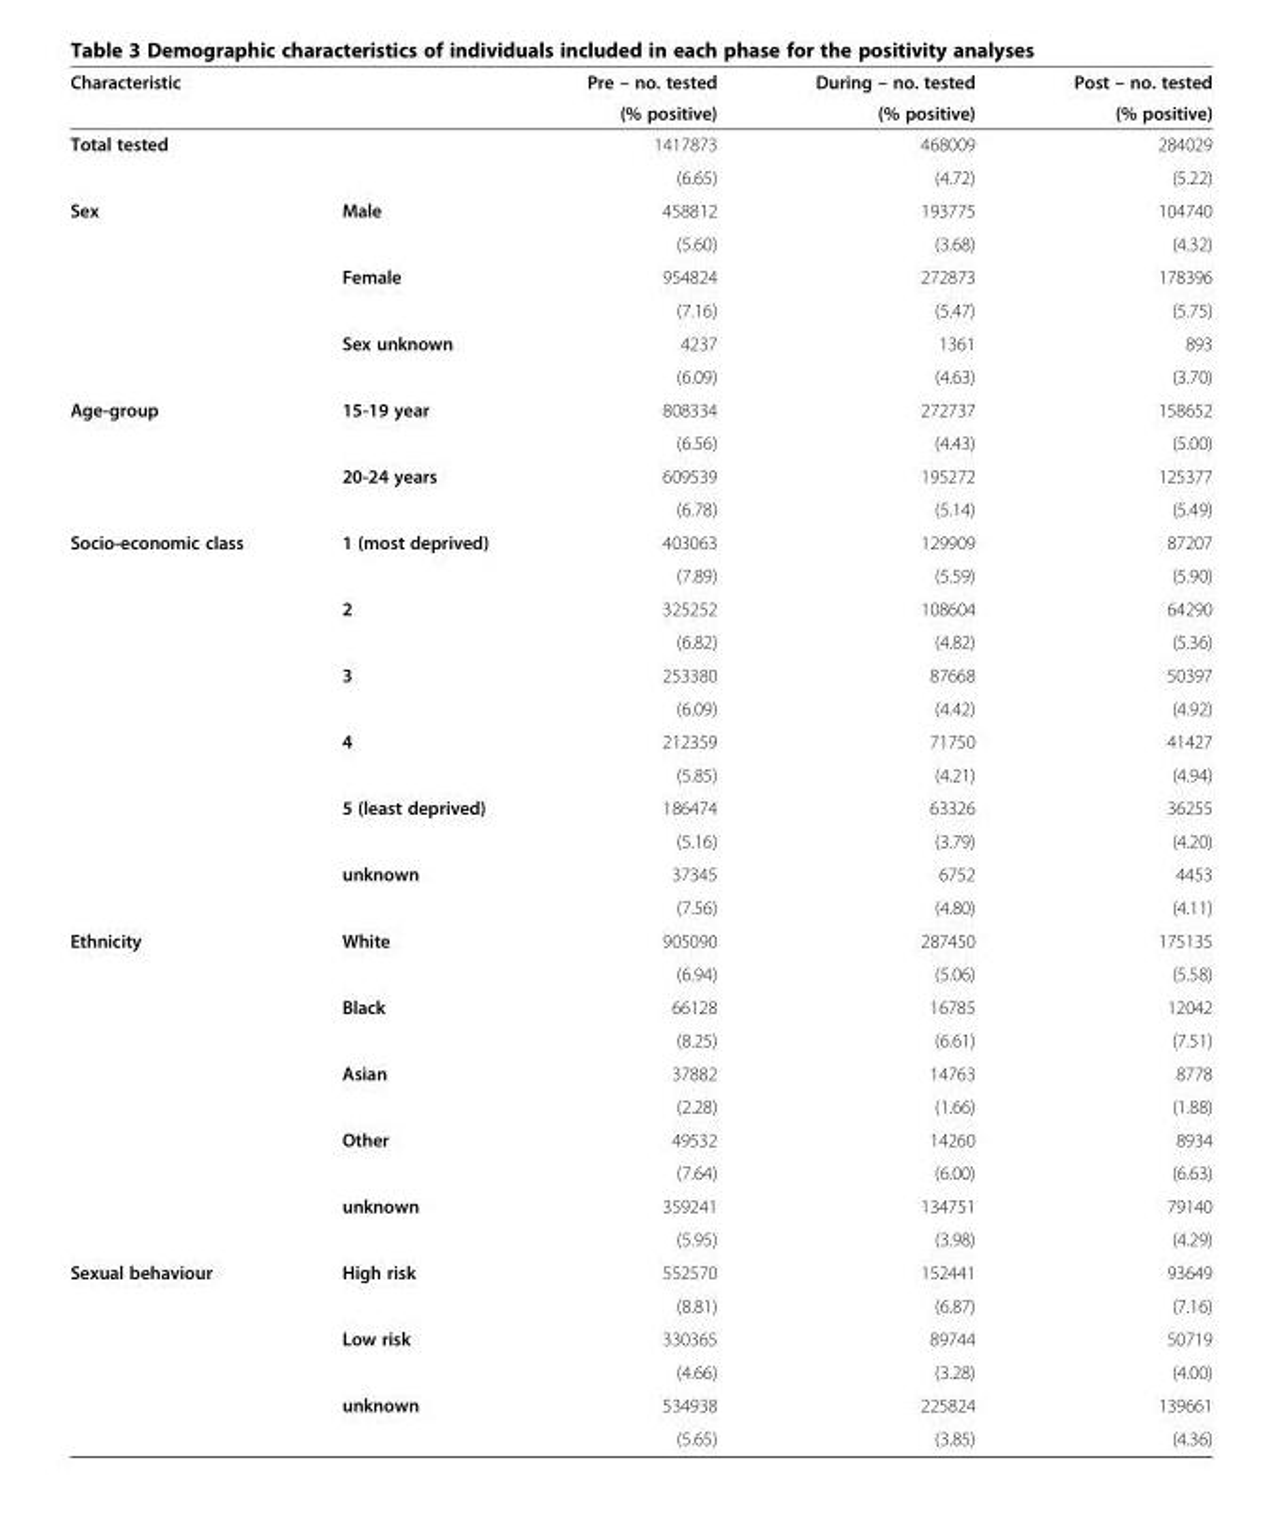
<table><thead><tr><td rowspan="2">Characteristic</td><td rowspan="2"></td><td rowspan="2">Pre – no. tested (% positive)</td><td rowspan="2">During – no. tested (% positive)</td><td rowspan="2">Post – no. tested (% positive)</td></tr><tr></tr></thead><tbody><tr><td rowspan="2" colspan="2">Total tested</td><td>1417873</td><td>468009</td><td>284029</td></tr><tr><td>(6.65)</td><td>(4.72)</td><td>(5.22)</td></tr><tr><td rowspan="6">Sex</td><td rowspan="2">Male</td><td>458812</td><td>193775</td><td>104740</td></tr><tr><td>(5.60)</td><td>(3.68)</td><td>(4.32)</td></tr><tr><td rowspan="2">Female</td><td>954824</td><td>272873</td><td>178396</td></tr><tr><td>(7.16)</td><td>(5.47)</td><td>(5.75)</td></tr><tr><td rowspan="2">Sex unknown</td><td>4237</td><td>1361</td><td>893</td></tr><tr><td>(6.09)</td><td>(4.63)</td><td>(3.70)</td></tr><tr><td rowspan="4">Age-group</td><td rowspan="2">15-19 year</td><td>808334</td><td>272737</td><td>158652</td></tr><tr><td>(6.56)</td><td>(4.43)</td><td>(5.00)</td></tr><tr><td rowspan="2">20-24 years</td><td>609539</td><td>195272</td><td>125377</td></tr><tr><td>(6.78)</td><td>(5.14)</td><td>(5.49)</td></tr><tr><td rowspan="12">Socio-economic class</td><td rowspan="2">1 (most deprived)</td><td>403063</td><td>129909</td><td>87207</td></tr><tr><td>(7.89)</td><td>(5.59)</td><td>(5.90)</td></tr><tr><td rowspan="2">2</td><td>325252</td><td>108604</td><td>64290</td></tr><tr><td>(6.82)</td><td>(4.82)</td><td>(5.36)</td></tr><tr><td rowspan="2">3</td><td>253380</td><td>87668</td><td>50397</td></tr><tr><td>(6.09)</td><td>(4.42)</td><td>(4.92)</td></tr><tr><td rowspan="2">4</td><td>212359</td><td>71750</td><td>41427</td></tr><tr><td>(5.85)</td><td>(4.21)</td><td>(4.94)</td></tr><tr><td rowspan="2">5 (least deprived)</td><td>186474</td><td>63326</td><td>36255</td></tr><tr><td>(5.16)</td><td>(3.79)</td><td>(4.20)</td></tr><tr><td rowspan="2">unknown</td><td>37345</td><td>6752</td><td>4453</td></tr><tr><td>(7.56)</td><td>(4.80)</td><td>(4.11)</td></tr><tr><td rowspan="10">Ethnicity</td><td rowspan="2">White</td><td>905090</td><td>287450</td><td>175135</td></tr><tr><td>(6.94)</td><td>(5.06)</td><td>(5.58)</td></tr><tr><td rowspan="2">Black</td><td>66128</td><td>16785</td><td>12042</td></tr><tr><td>(8.25)</td><td>(6.61)</td><td>(7.51)</td></tr><tr><td rowspan="2">Asian</td><td>37882</td><td>14763</td><td>8778</td></tr><tr><td>(2.28)</td><td>(1.66)</td><td>(1.88)</td></tr><tr><td rowspan="2">Other</td><td>49532</td><td>14260</td><td>8934</td></tr><tr><td>(7.64)</td><td>(6.00)</td><td>(6.63)</td></tr><tr><td rowspan="2">unknown</td><td>359241</td><td>134751</td><td>79140</td></tr><tr><td>(5.95)</td><td>(3.98)</td><td>(4.29)</td></tr><tr><td rowspan="6">Sexual behaviour</td><td rowspan="2">High risk</td><td>552570</td><td>152441</td><td>93649</td></tr><tr><td>(8.81)</td><td>(6.87)</td><td>(7.16)</td></tr><tr><td rowspan="2">Low risk</td><td>330365</td><td>89744</td><td>50719</td></tr><tr><td>(4.66)</td><td>(3.28)</td><td>(4.00)</td></tr><tr><td>unknown</td><td>534938</td><td>225824</td><td>139661</td></tr><tr><td></td><td>(5.65)</td><td>(3.85)</td><td>(4.36)</td></tr></tbody></table>